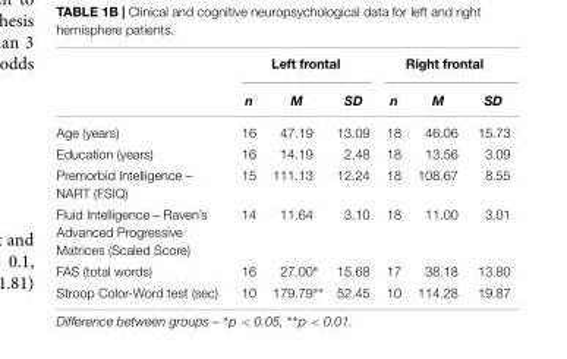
<table><thead><tr><td rowspan="2"></td><td colspan="3">Left frontal</td><td colspan="3">Right frontal</td></tr><tr><td>n</td><td>M</td><td>SD</td><td>n</td><td>M</td><td>SD</td></tr></thead><tbody><tr><td>Age (years)</td><td>16</td><td>47.19</td><td>13.09</td><td>18</td><td>46.06</td><td>15.73</td></tr><tr><td>Education (years)</td><td>16</td><td>14.19</td><td>2.48</td><td>18</td><td>13.56</td><td>3.09</td></tr><tr><td>Premorbid Intelligence – NART (FSIQ)</td><td>15</td><td>111.13</td><td>12.24</td><td>18</td><td>108.67</td><td>8.55</td></tr><tr><td>Fluid Intelligence – Raven’s Advanced Progressive Matrices (Scaled Score)</td><td>14</td><td>11.64</td><td>3.10</td><td>18</td><td>11.00</td><td>3.01</td></tr><tr><td>FAS (total words)</td><td>16</td><td>27.00∗</td><td>15.68</td><td>17</td><td>38.18</td><td>13.80</td></tr><tr><td>Stroop Color-Word test (sec)</td><td>10</td><td>179.79∗∗</td><td>52.45</td><td>10</td><td>114.28</td><td>19.87</td></tr></tbody></table>